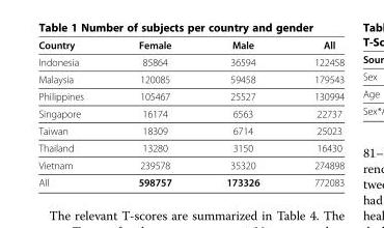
<table><thead><tr><td>Country</td><td>Female</td><td>Male</td><td>All</td></tr></thead><tbody><tr><td>Indonesia</td><td>85864</td><td>36594</td><td>122458</td></tr><tr><td>Malaysia</td><td>120085</td><td>59458</td><td>179543</td></tr><tr><td>Philippines</td><td>105467</td><td>25527</td><td>130994</td></tr><tr><td>Singapore</td><td>16174</td><td>6563</td><td>22737</td></tr><tr><td>Taiwan</td><td>18309</td><td>6714</td><td>25023</td></tr><tr><td>Thailand</td><td>13280</td><td>3150</td><td>16430</td></tr><tr><td>Vietnam</td><td>239578</td><td>35320</td><td>274898</td></tr><tr><td>All</td><td>598757</td><td>173326</td><td>772083</td></tr></tbody></table>